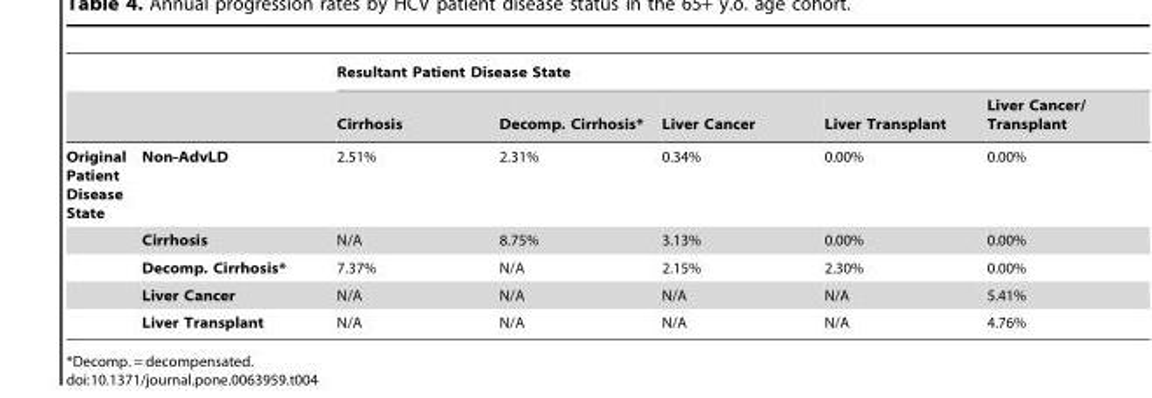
<table><thead><tr><td rowspan="2"></td><td rowspan="2"></td><td colspan="5">Resultant Patient Disease State</td></tr><tr><td>Cirrhosis</td><td>Decomp. Cirrhosis*</td><td>Liver Cancer</td><td>Liver Transplant</td><td>Liver Cancer/ Transplant</td></tr></thead><tbody><tr><td rowspan="5">Original Patient Disease State</td><td>Non-AdvLD</td><td>2.51%</td><td>2.31%</td><td>0.34%</td><td>0.00%</td><td>0.00%</td></tr><tr><td>Cirrhosis</td><td>N/A</td><td>8.75%</td><td>3.13%</td><td>0.00%</td><td>0.00%</td></tr><tr><td>Decomp. Cirrhosis*</td><td>7.37%</td><td>N/A</td><td>2.15%</td><td>2.30%</td><td>0.00%</td></tr><tr><td>Liver Cancer</td><td>N/A</td><td>N/A</td><td>N/A</td><td>N/A</td><td>5.41%</td></tr><tr><td>Liver Transplant</td><td>N/A</td><td>N/A</td><td>N/A</td><td>N/A</td><td>4.76%</td></tr></tbody></table>